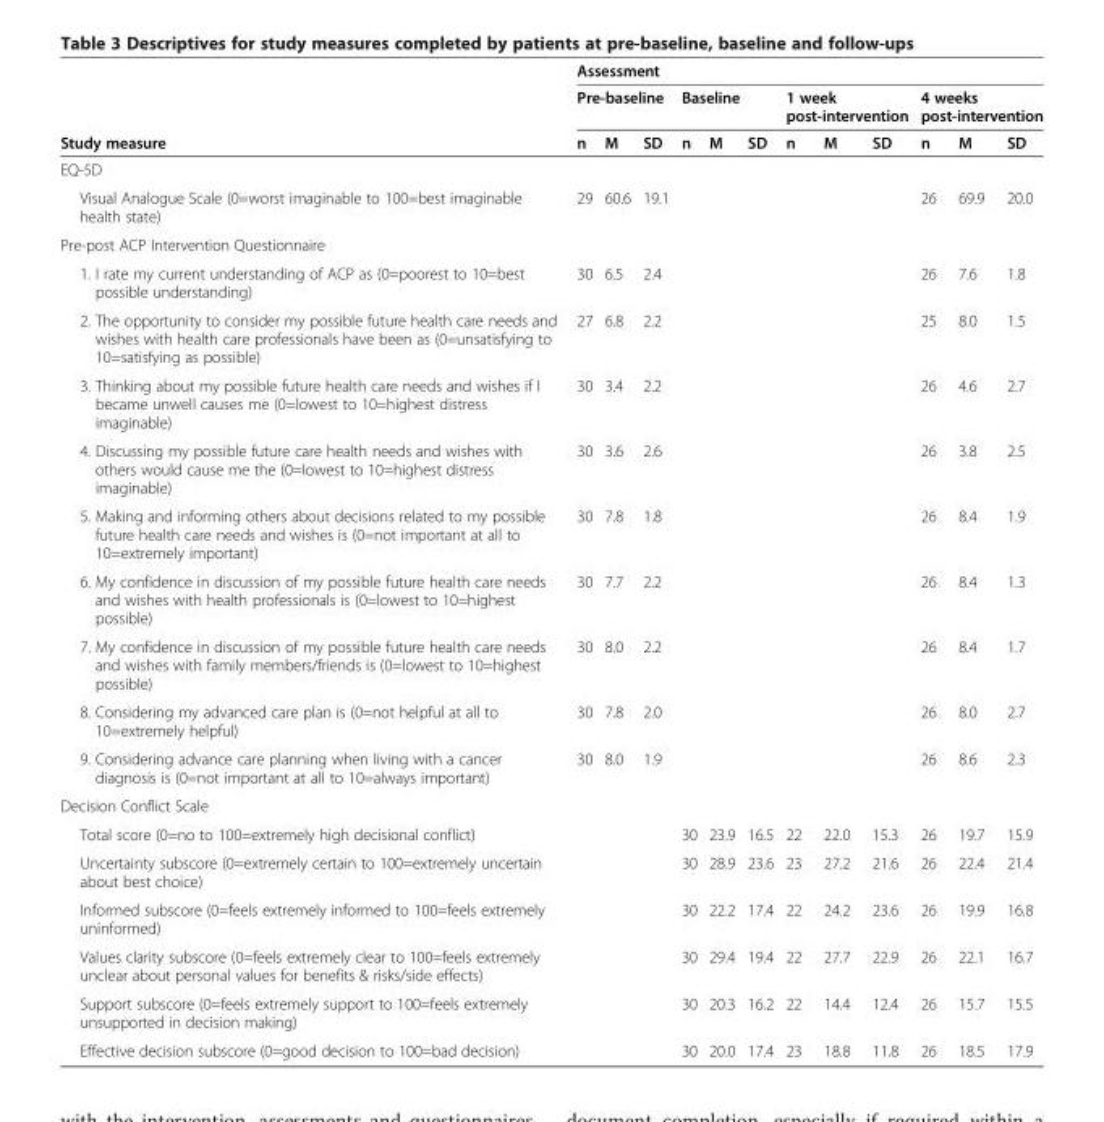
<table><thead><tr><td rowspan="3">Study measure</td><td colspan="12">Assessment</td></tr><tr><td colspan="3">Pre-baseline</td><td colspan="3">Baseline</td><td colspan="3">1 week post-intervention</td><td colspan="3">4 weeks post-intervention</td></tr><tr><td>n</td><td>M</td><td>SD</td><td>n</td><td>M</td><td>SD</td><td>n</td><td>M</td><td>SD</td><td>n</td><td>M</td><td>SD</td></tr></thead><tbody><tr><td colspan="13">EQ-5D</td></tr><tr><td>Visual Analogue Scale (0=worst imaginable to 100=best imaginable health state)</td><td>29</td><td>60.6</td><td>19.1</td><td></td><td></td><td></td><td></td><td></td><td></td><td>26</td><td>69.9</td><td>20.0</td></tr><tr><td colspan="13">Pre-post ACP Intervention Questionnaire</td></tr><tr><td>1. I rate my current understanding of ACP as (0=poorest to 10=best possible understanding)</td><td>30</td><td>6.5</td><td>2.4</td><td></td><td></td><td></td><td></td><td></td><td></td><td>26</td><td>7.6</td><td>1.8</td></tr><tr><td>2. The opportunity to consider my possible future health care needs and wishes with health care professionals have been as (0=unsatisfying to 10=satisfying as possible)</td><td>27</td><td>6.8</td><td>2.2</td><td></td><td></td><td></td><td></td><td></td><td></td><td>25</td><td>8.0</td><td>1.5</td></tr><tr><td>3. Thinking about my possible future health care needs and wishes if I became unwell causes me (0=lowest to 10=highest distress imaginable)</td><td>30</td><td>3.4</td><td>2.2</td><td></td><td></td><td></td><td></td><td></td><td></td><td>26</td><td>4.6</td><td>2.7</td></tr><tr><td>4. Discussing my possible future care health needs and wishes with others would cause me the (0=lowest to 10=highest distress imaginable)</td><td>30</td><td>3.6</td><td>2.6</td><td></td><td></td><td></td><td></td><td></td><td></td><td>26</td><td>3.8</td><td>2.5</td></tr><tr><td>5. Making and informing others about decisions related to my possible future health care needs and wishes is (0=not important at all to 10=extremely important)</td><td>30</td><td>7.8</td><td>1.8</td><td></td><td></td><td></td><td></td><td></td><td></td><td>26</td><td>8.4</td><td>1.9</td></tr><tr><td>6. My confidence in discussion of my possible future health care needs and wishes with health professionals is (0=lowest to 10=highest possible)</td><td>30</td><td>7.7</td><td>2.2</td><td></td><td></td><td></td><td></td><td></td><td></td><td>26</td><td>8.4</td><td>1.3</td></tr><tr><td>7. My confidence in discussion of my possible future health care needs and wishes with family members/friends is (0=lowest to 10=highest possible)</td><td>30</td><td>8.0</td><td>2.2</td><td></td><td></td><td></td><td></td><td></td><td></td><td>26</td><td>8.4</td><td>1.7</td></tr><tr><td>8. Considering my advanced care plan is (0=not helpful at all to 10=extremely helpful)</td><td>30</td><td>7.8</td><td>2.0</td><td></td><td></td><td></td><td></td><td></td><td></td><td>26</td><td>8.0</td><td>2.7</td></tr><tr><td>9. Considering advance care planning when living with a cancer diagnosis is (0=not important at all to 10=always important)</td><td>30</td><td>8.0</td><td>1.9</td><td></td><td></td><td></td><td></td><td></td><td></td><td>26</td><td>8.6</td><td>2.3</td></tr><tr><td colspan="13">Decision Conflict Scale</td></tr><tr><td>Total score (0=no to 100=extremely high decisional conflict)</td><td></td><td></td><td></td><td>30</td><td>23.9</td><td>16.5</td><td>22</td><td>22.0</td><td>15.3</td><td>26</td><td>19.7</td><td>15.9</td></tr><tr><td>Uncertainty subscore (0=extremely certain to 100=extremely uncertain about best choice)</td><td></td><td></td><td></td><td>30</td><td>28.9</td><td>23.6</td><td>23</td><td>27.2</td><td>21.6</td><td>26</td><td>22.4</td><td>21.4</td></tr><tr><td>Informed subscore (0=feels extremely informed to 100=feels extremely uninformed)</td><td></td><td></td><td></td><td>30</td><td>22.2</td><td>17.4</td><td>22</td><td>24.2</td><td>23.6</td><td>26</td><td>19.9</td><td>16.8</td></tr><tr><td>Values clarity subscore (0=feels extremely clear to 100=feels extremely unclear about personal values for benefits &amp; risks/side effects)</td><td></td><td></td><td></td><td>30</td><td>29.4</td><td>19.4</td><td>22</td><td>27.7</td><td>22.9</td><td>26</td><td>22.1</td><td>16.7</td></tr><tr><td>Support subscore (0=feels extremely support to 100=feels extremely unsupported in decision making)</td><td></td><td></td><td></td><td>30</td><td>20.3</td><td>16.2</td><td>22</td><td>14.4</td><td>12.4</td><td>26</td><td>15.7</td><td>15.5</td></tr><tr><td>Effective decision subscore (0=good decision to 100=bad decision)</td><td></td><td></td><td></td><td>30</td><td>20.0</td><td>17.4</td><td>23</td><td>18.8</td><td>11.8</td><td>26</td><td>18.5</td><td>17.9</td></tr></tbody></table>